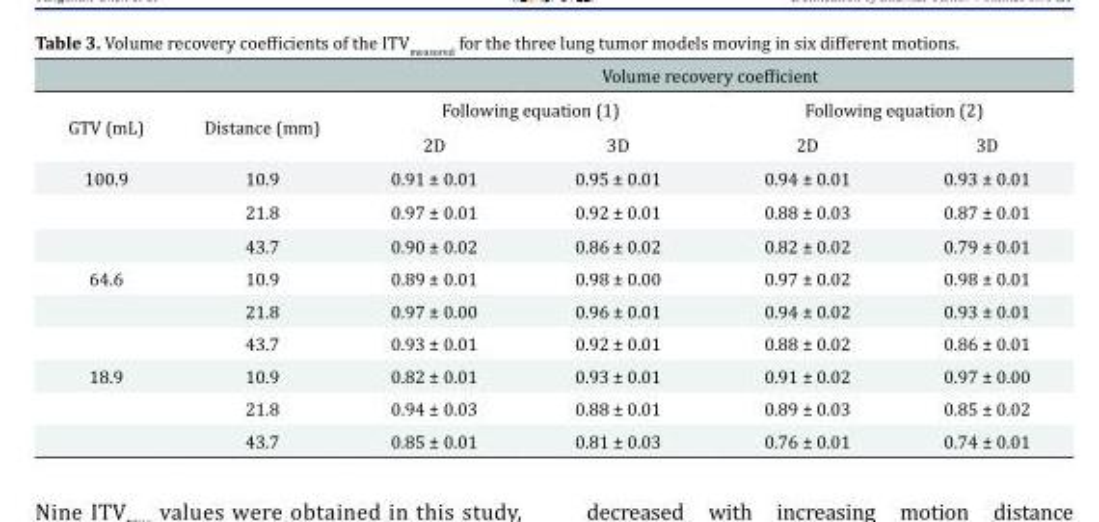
<table><thead><tr><td rowspan="3">GTV (mL)</td><td rowspan="3">Distance (mm)</td><td colspan="4">Volume recovery coefficient</td></tr><tr><td colspan="2">Following equation (1)</td><td colspan="2">Following equation (2)</td></tr><tr><td>2D</td><td>3D</td><td>2D</td><td>3D</td></tr></thead><tbody><tr><td rowspan="3">100.9</td><td>10.9</td><td>0.91 ± 0.01</td><td>0.95 ± 0.01</td><td>0.94 ± 0.01</td><td>0.93 ± 0.01</td></tr><tr><td>21.8</td><td>0.97 ± 0.01</td><td>0.92 ± 0.01</td><td>0.88 ± 0.03</td><td>0.87 ± 0.01</td></tr><tr><td>43.7</td><td>0.90 ± 0.02</td><td>0.86 ± 0.02</td><td>0.82 ± 0.02</td><td>0.79 ± 0.01</td></tr><tr><td rowspan="3">64.6</td><td>10.9</td><td>0.89 ± 0.01</td><td>0.98 ± 0.00</td><td>0.97 ± 0.02</td><td>0.98 ± 0.01</td></tr><tr><td>21.8</td><td>0.97 ± 0.00</td><td>0.96 ± 0.01</td><td>0.94 ± 0.02</td><td>0.93 ± 0.01</td></tr><tr><td>43.7</td><td>0.93 ± 0.01</td><td>0.92 ± 0.01</td><td>0.88 ± 0.02</td><td>0.86 ± 0.01</td></tr><tr><td rowspan="3">18.9</td><td>10.9</td><td>0.82 ± 0.01</td><td>0.93 ± 0.01</td><td>0.91 ± 0.02</td><td>0.97 ± 0.00</td></tr><tr><td>21.8</td><td>0.94 ± 0.03</td><td>0.88 ± 0.01</td><td>0.89 ± 0.03</td><td>0.85 ± 0.02</td></tr><tr><td>43.7</td><td>0.85 ± 0.01</td><td>0.81 ± 0.03</td><td>0.76 ± 0.01</td><td>0.74 ± 0.01</td></tr></tbody></table>